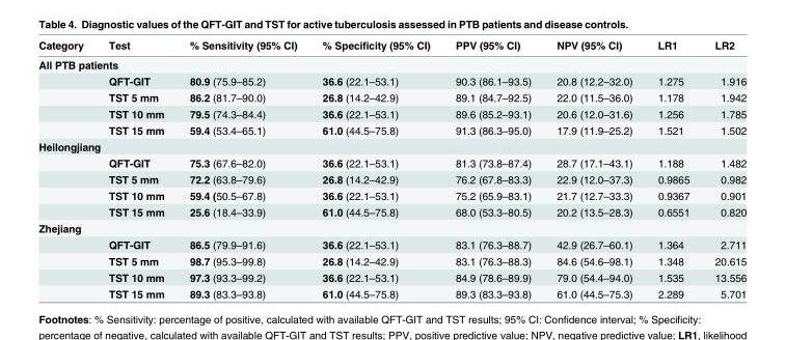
<table><thead><tr><td>Category</td><td>Test</td><td>% Sensitivity (95% CI)</td><td>% Specificity (95% CI)</td><td>PPV (95% CI)</td><td>NPV (95% CI)</td><td>LR1</td><td>LR2</td></tr></thead><tbody><tr><td colspan="8">All PTB patients</td></tr><tr><td></td><td>QFT-GIT</td><td>80.9 (75.9–85.2)</td><td>36.6 (22.1–53.1)</td><td>90.3 (86.1–93.5)</td><td>20.8 (12.2–32.0)</td><td>1.275</td><td>1.916</td></tr><tr><td></td><td>TST 5 mm</td><td>86.2 (81.7–90.0)</td><td>26.8 (14.2–42.9)</td><td>89.1 (84.7–92.5)</td><td>22.0 (11.5–36.0)</td><td>1.178</td><td>1.942</td></tr><tr><td></td><td>TST 10 mm</td><td>79.5 (74.3–84.4)</td><td>36.6 (22.1–53.1)</td><td>89.6 (85.2–93.1)</td><td>20.6 (12.0–31.6)</td><td>1.256</td><td>1.785</td></tr><tr><td></td><td>TST 15 mm</td><td>59.4 (53.4–65.1)</td><td>61.0 (44.5–75.8)</td><td>91.3 (86.3–95.0)</td><td>17.9 (11.9–25.2)</td><td>1.521</td><td>1.502</td></tr><tr><td colspan="8">Heilongjiang</td></tr><tr><td></td><td>QFT-GIT</td><td>75.3 (67.6–82.0)</td><td>36.6 (22.1–53.1)</td><td>81.3 (73.8–87.4)</td><td>28.7 (17.1–43.1)</td><td>1.188</td><td>1.482</td></tr><tr><td></td><td>TST 5 mm</td><td>72.2 (63.8–79.6)</td><td>26.8 (14.2–42.9)</td><td>76.2 (67.8–83.3)</td><td>22.9 (12.0–37.3)</td><td>0.9865</td><td>0.982</td></tr><tr><td></td><td>TST 10 mm</td><td>59.4 (50.5–67.8)</td><td>36.6 (22.1–53.1)</td><td>75.2 (65.9–83.1)</td><td>21.7 (12.7–33.3)</td><td>0.9367</td><td>0.901</td></tr><tr><td></td><td>TST 15 mm</td><td>25.6 (18.4–33.9)</td><td>61.0 (44.5–75.8)</td><td>68.0 (53.3–80.5)</td><td>20.2 (13.5–28.3)</td><td>0.6551</td><td>0.820</td></tr><tr><td colspan="8">Zhejiang</td></tr><tr><td></td><td>QFT-GIT</td><td>86.5 (79.9–91.6)</td><td>36.6 (22.1–53.1)</td><td>83.1 (76.3–88.7)</td><td>42.9 (26.7–60.1)</td><td>1.364</td><td>2.711</td></tr><tr><td></td><td>TST 5 mm</td><td>98.7 (95.3–99.8)</td><td>26.8 (14.2–42.9)</td><td>83.1 (76.3–88.3)</td><td>84.6 (54.6–98.1)</td><td>1.348</td><td>20.615</td></tr><tr><td></td><td>TST 10 mm</td><td>97.3 (93.3–99.2)</td><td>36.6 (22.1–53.1)</td><td>84.9 (78.6–89.9)</td><td>79.0 (54.4–94.0)</td><td>1.535</td><td>13.556</td></tr><tr><td></td><td>TST 15 mm</td><td>89.3 (83.3–93.8)</td><td>61.0 (44.5–75.8)</td><td>89.3 (83.3–93.8)</td><td>61.0 (44.5–75.3)</td><td>2.289</td><td>5.701</td></tr></tbody></table>